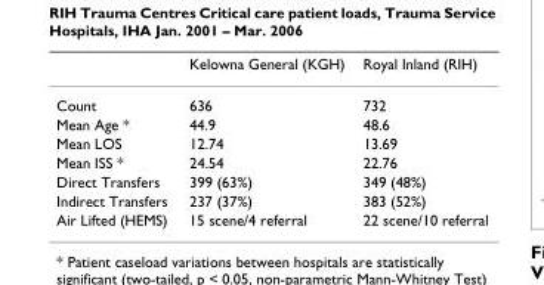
<table><thead><tr><td></td><td>Kelowna General (KGH)</td><td>Royal Inland (RIH)</td></tr></thead><tbody><tr><td>Count</td><td>636</td><td>732</td></tr><tr><td>Mean Age *</td><td>44.9</td><td>48.6</td></tr><tr><td>Mean LOS</td><td>12.74</td><td>13.69</td></tr><tr><td>Mean ISS *</td><td>24.54</td><td>22.76</td></tr><tr><td>Direct Transfers</td><td>399 (63%)</td><td>349 (48%)</td></tr><tr><td>Indirect Transfers</td><td>237 (37%)</td><td>383 (52%)</td></tr><tr><td>Air Lifted (HEMS)</td><td>15 scene/4 referral</td><td>22 scene/10 referral</td></tr></tbody></table>